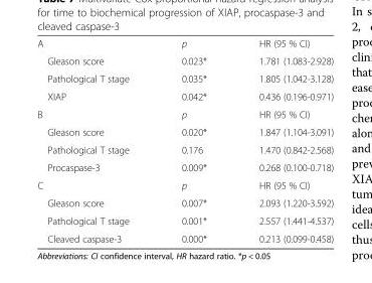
<table><tbody><tr><td>A</td><td>p</td><td>HR (95 % CI)</td></tr><tr><td>Gleason score</td><td>0.023*</td><td>1.781 (1.083-2.928)</td></tr><tr><td>Pathological T stage</td><td>0.035*</td><td>1.805 (1.042-3.128)</td></tr><tr><td>XIAP</td><td>0.042*</td><td>0.436 (0.196-0.971)</td></tr><tr><td>B</td><td>p</td><td>HR (95 % CI)</td></tr><tr><td>Gleason score</td><td>0.020*</td><td>1.847 (1.104-3.091)</td></tr><tr><td>Pathological T stage</td><td>0.176</td><td>1.470 (0.842-2.568)</td></tr><tr><td>Procaspase-3</td><td>0.009*</td><td>0.268 (0.100-0.718)</td></tr><tr><td>C</td><td>p</td><td>HR (95 % CI)</td></tr><tr><td>Gleason score</td><td>0.007*</td><td>2.093 (1.220-3.592)</td></tr><tr><td>Pathological T stage</td><td>0.001*</td><td>2.557 (1.441-4.537)</td></tr><tr><td>Cleaved caspase-3</td><td>0.000*</td><td>0.213 (0.099-0.458)</td></tr></tbody></table>